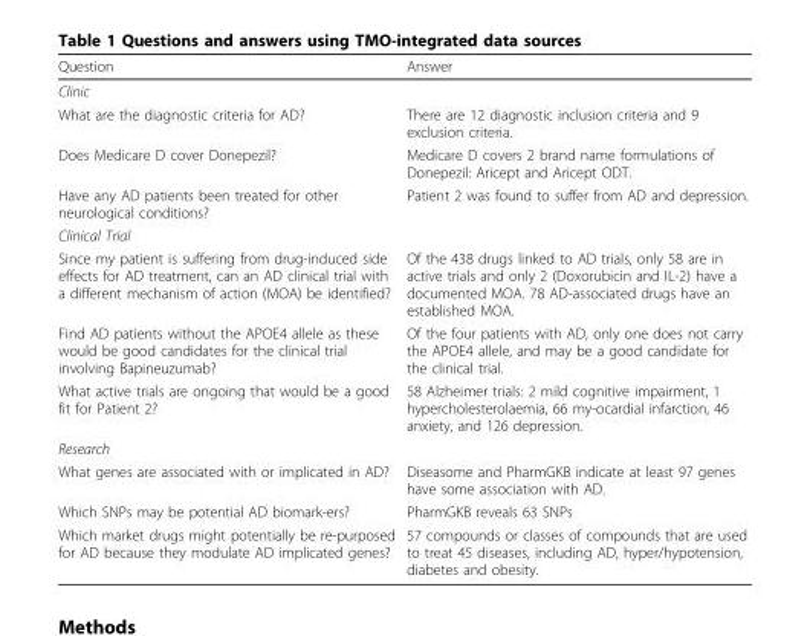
<table><thead><tr><td>Question</td><td>Answer</td></tr></thead><tbody><tr><td colspan="2">Clinic</td></tr><tr><td>What are the diagnostic criteria for AD?</td><td>There are 12 diagnostic inclusion criteria and 9 exclusion criteria.</td></tr><tr><td>Does Medicare D cover Donepezil?</td><td>Medicare D covers 2 brand name formulations of Donepezil: Aricept and Aricept ODT.</td></tr><tr><td>Have any AD patients been treated for other neurological conditions?</td><td>Patient 2 was found to suffer from AD and depression.</td></tr><tr><td colspan="2">Clinical Trial</td></tr><tr><td>Since my patient is suffering from drug-induced side effects for AD treatment, can an AD clinical trial with a different mechanism of action (MOA) be identified?</td><td>Of the 438 drugs linked to AD trials, only 58 are in active trials and only 2 (Doxorubicin and IL-2) have a documented MOA. 78 AD-associated drugs have an established MOA.</td></tr><tr><td>Find AD patients without the APOE4 allele as these would be good candidates for the clinical trial involving Bapineuzumab?</td><td>Of the four patients with AD, only one does not carry the APOE4 allele, and may be a good candidate for the clinical trial.</td></tr><tr><td>What active trials are ongoing that would be a good fit for Patient 2?</td><td>58 Alzheimer trials: 2 mild cognitive impairment, 1 hypercholesterolaemia, 66 my-ocardial infarction, 46 anxiety, and 126 depression.</td></tr><tr><td colspan="2">Research</td></tr><tr><td>What genes are associated with or implicated in AD?</td><td>Diseasome and PharmGKB indicate at least 97 genes have some association with AD.</td></tr><tr><td>Which SNPs may be potential AD biomark-ers?</td><td>PharmGKB reveals 63 SNPs</td></tr><tr><td>Which market drugs might potentially be re-purposed for AD because they modulate AD implicated genes?</td><td>57 compounds or classes of compounds that are used to treat 45 diseases, including AD, hyper/hypotension, diabetes and obesity.</td></tr></tbody></table>